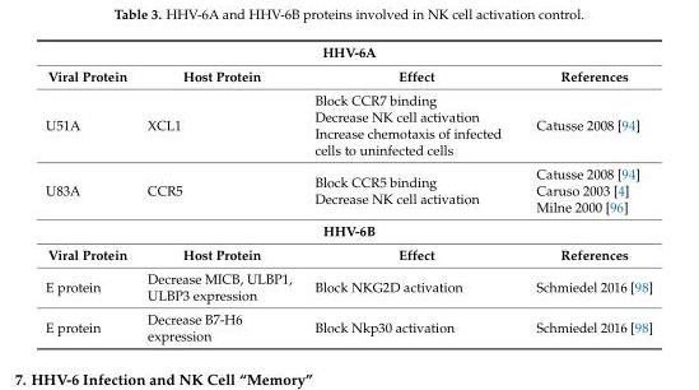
<table><tbody><tr><td colspan="4">HHV-6A</td></tr><tr><td>Viral Protein</td><td>Host Protein</td><td>Effect</td><td>References</td></tr><tr><td>U51A</td><td>XCL1</td><td>Block CCR7 binding Decrease NK cell activation Increase chemotaxis of infected cells to uninfected cells</td><td>Catusse 2008 [94]</td></tr><tr><td>U83A</td><td>CCR5</td><td>Block CCR5 binding Decrease NK cell activation</td><td>Catusse 2008 [94] Caruso 2003 [4] Milne 2000 [96]</td></tr><tr><td colspan="4">HHV-6B</td></tr><tr><td>Viral Protein</td><td>Host Protein</td><td>Effect</td><td>References</td></tr><tr><td>E protein</td><td>Decrease MICB, ULBP1, ULBP3 expression</td><td>Block NKG2D activation</td><td>Schmiedel 2016 [98]</td></tr><tr><td>E protein</td><td>Decrease B7-H6 expression</td><td>Block Nkp30 activation</td><td>Schmiedel 2016 [98]</td></tr></tbody></table>